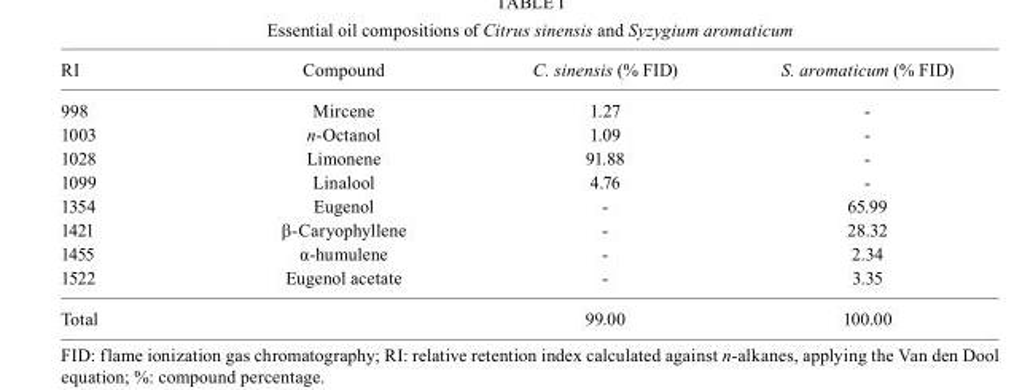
<table><thead><tr><td>RI</td><td>Compound</td><td>C. sinensis (% FID)</td><td>S. aromaticum (% FID)</td></tr></thead><tbody><tr><td>998</td><td>Mircene</td><td>1.27</td><td>-</td></tr><tr><td>1003</td><td>n-Octanol</td><td>1.09</td><td>-</td></tr><tr><td>1028</td><td>Limonene</td><td>91.88</td><td>-</td></tr><tr><td>1099</td><td>Linalool</td><td>4.76</td><td>-</td></tr><tr><td>1354</td><td>Eugenol</td><td>-</td><td>65.99</td></tr><tr><td>1421</td><td>b-Caryophyllene</td><td>-</td><td>28.32</td></tr><tr><td>1455</td><td>α-humulene</td><td>-</td><td>2.34</td></tr><tr><td>1522</td><td>Eugenol acetate</td><td>-</td><td>3.35</td></tr><tr><td>Total</td><td></td><td>99.00</td><td>100.00</td></tr></tbody></table>